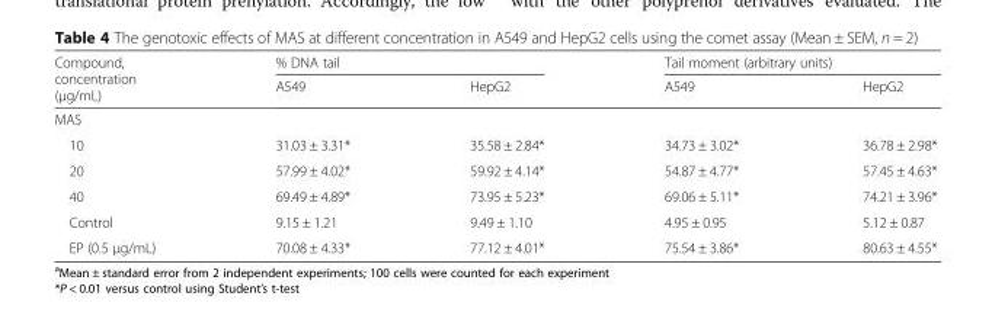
<table><thead><tr><td rowspan="2">Compound, concentration (μg/mL)</td><td colspan="2">% DNA tail</td><td colspan="2">Tail moment (arbitrary units)</td></tr><tr><td>A549</td><td>HepG2</td><td>A549</td><td>HepG2</td></tr></thead><tbody><tr><td colspan="5">MAS</td></tr><tr><td>10</td><td>31.03 ± 3.31*</td><td>35.58 ± 2.84*</td><td>34.73 ± 3.02*</td><td>36.78 ± 2.98*</td></tr><tr><td>20</td><td>57.99 ± 4.02*</td><td>59.92 ± 4.14*</td><td>54.87 ± 4.77*</td><td>57.45 ± 4.63*</td></tr><tr><td>40</td><td>69.49 ± 4.89*</td><td>73.95 ± 5.23*</td><td>69.06 ± 5.11*</td><td>74.21 ± 3.96*</td></tr><tr><td>Control</td><td>9.15 ± 1.21</td><td>9.49 ± 1.10</td><td>4.95 ± 0.95</td><td>5.12 ± 0.87</td></tr><tr><td>EP (0.5 μg/mL)</td><td>70.08 ± 4.33*</td><td>77.12 ± 4.01*</td><td>75.54 ± 3.86*</td><td>80.63 ± 4.55*</td></tr></tbody></table>